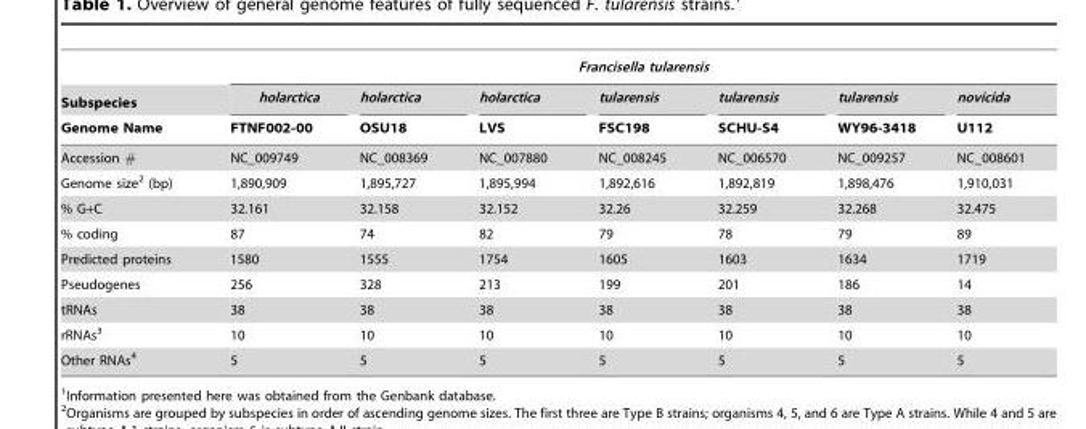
<table><thead><tr><td rowspan="3">Subspecies Genome Name</td><td colspan="7">Francisella tularensis</td></tr><tr><td rowspan="2">holarctica FTNF002-00</td><td rowspan="2">holarctica OSU18</td><td rowspan="2">holarctica LVS</td><td rowspan="2">tularensis FSC198</td><td rowspan="2">tularensis SCHU-S4</td><td rowspan="2">tularensis WY96-3418</td><td rowspan="2">novicida U112</td></tr><tr></tr></thead><tbody><tr><td>Accession #</td><td>NC_009749</td><td>NC_008369</td><td>NC_007880</td><td>NC_008245</td><td>NC_006570</td><td>NC_009257</td><td>NC_008601</td></tr><tr><td>Genome size<sup>2</sup> (bp)</td><td>1,890,909</td><td>1,895,727</td><td>1,895,994</td><td>1,892,616</td><td>1,892,819</td><td>1,898,476</td><td>1,910,031</td></tr><tr><td>% G+C</td><td>32.161</td><td>32.158</td><td>32.152</td><td>32.26</td><td>32.259</td><td>32.268</td><td>32.475</td></tr><tr><td>% coding</td><td>87</td><td>74</td><td>82</td><td>79</td><td>78</td><td>79</td><td>89</td></tr><tr><td>Predicted proteins</td><td>1580</td><td>1555</td><td>1754</td><td>1605</td><td>1603</td><td>1634</td><td>1719</td></tr><tr><td>Pseudogenes</td><td>256</td><td>328</td><td>213</td><td>199</td><td>201</td><td>186</td><td>14</td></tr><tr><td>tRNAs</td><td>38</td><td>38</td><td>38</td><td>38</td><td>38</td><td>38</td><td>38</td></tr><tr><td>rRNAs<sup>3</sup></td><td>10</td><td>10</td><td>10</td><td>10</td><td>10</td><td>10</td><td>10</td></tr><tr><td>Other RNAs<sup>4</sup></td><td>5</td><td>5</td><td>5</td><td>5</td><td>5</td><td>5</td><td>5</td></tr></tbody></table>